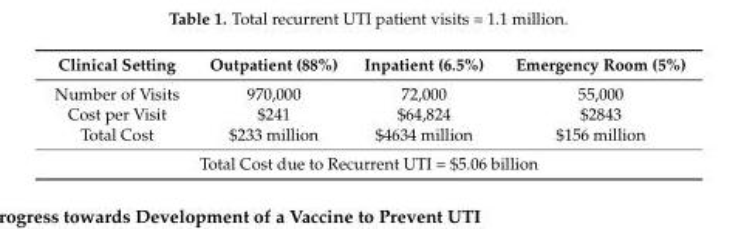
<table><thead><tr><td>Clinical Setting</td><td>Outpatient (88%)</td><td>Inpatient (6.5%)</td><td>Emergency Room (5%)</td></tr></thead><tbody><tr><td>Number of Visits</td><td>970,000</td><td>72,000</td><td>55,000</td></tr><tr><td>Cost per Visit</td><td>$241</td><td>$64,824</td><td>$2843</td></tr><tr><td>Total Cost</td><td>$233 million</td><td>$4634 million</td><td>$156 million</td></tr><tr><td colspan="4">Total Cost due to Recurrent UTI = $5.06 billion</td></tr></tbody></table>